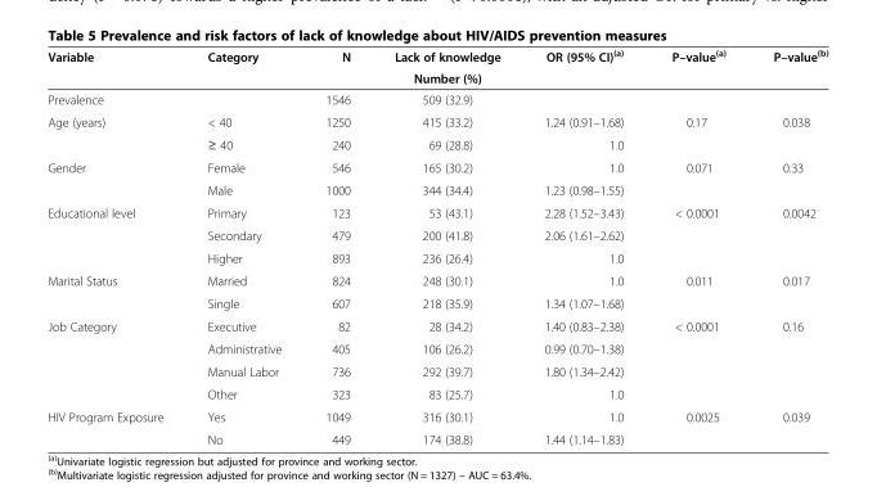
<table><thead><tr><td rowspan="2">Variable</td><td rowspan="2">Category</td><td rowspan="2">N</td><td rowspan="2">Lack of knowledge Number (%)</td><td rowspan="2">OR (95% CI)<sup>(a)</sup></td><td rowspan="2">P–value<sup>(a)</sup></td><td rowspan="2">P–value<sup>(b)</sup></td></tr><tr></tr></thead><tbody><tr><td>Prevalence</td><td></td><td>1546</td><td>509 (32.9)</td><td></td><td></td><td></td></tr><tr><td rowspan="2">Age (years)</td><td>&lt; 40</td><td>1250</td><td>415 (33.2)</td><td>1.24 (0.91–1.68)</td><td rowspan="2">0.17</td><td rowspan="2">0.038</td></tr><tr><td>≥ 40</td><td>240</td><td>69 (28.8)</td><td>1.0</td></tr><tr><td rowspan="2">Gender</td><td>Female</td><td>546</td><td>165 (30.2)</td><td>1.0</td><td rowspan="2">0.071</td><td rowspan="2">0.33</td></tr><tr><td>Male</td><td>1000</td><td>344 (34.4)</td><td>1.23 (0.98–1.55)</td></tr><tr><td rowspan="3">Educational level</td><td>Primary</td><td>123</td><td>53 (43.1)</td><td>2.28 (1.52–3.43)</td><td rowspan="3">&lt; 0.0001</td><td rowspan="3">0.0042</td></tr><tr><td>Secondary</td><td>479</td><td>200 (41.8)</td><td>2.06 (1.61–2.62)</td></tr><tr><td>Higher</td><td>893</td><td>236 (26.4)</td><td>1.0</td></tr><tr><td rowspan="2">Marital Status</td><td>Married</td><td>824</td><td>248 (30.1)</td><td>1.0</td><td rowspan="2">0.011</td><td rowspan="2">0.017</td></tr><tr><td>Single</td><td>607</td><td>218 (35.9)</td><td>1.34 (1.07–1.68)</td></tr><tr><td rowspan="4">Job Category</td><td>Executive</td><td>82</td><td>28 (34.2)</td><td>1.40 (0.83–2.38)</td><td rowspan="4">&lt; 0.0001</td><td rowspan="4">0.16</td></tr><tr><td>Administrative</td><td>405</td><td>106 (26.2)</td><td>0.99 (0.70–1.38)</td></tr><tr><td>Manual Labor</td><td>736</td><td>292 (39.7)</td><td>1.80 (1.34–2.42)</td></tr><tr><td>Other</td><td>323</td><td>83 (25.7)</td><td>1.0</td></tr><tr><td rowspan="2">HIV Program Exposure</td><td>Yes</td><td>1049</td><td>316 (30.1)</td><td>1.0</td><td>0.0025</td><td>0.039</td></tr><tr><td>No</td><td>449</td><td>174 (38.8)</td><td>1.44 (1.14–1.83)</td><td></td><td></td></tr></tbody></table>